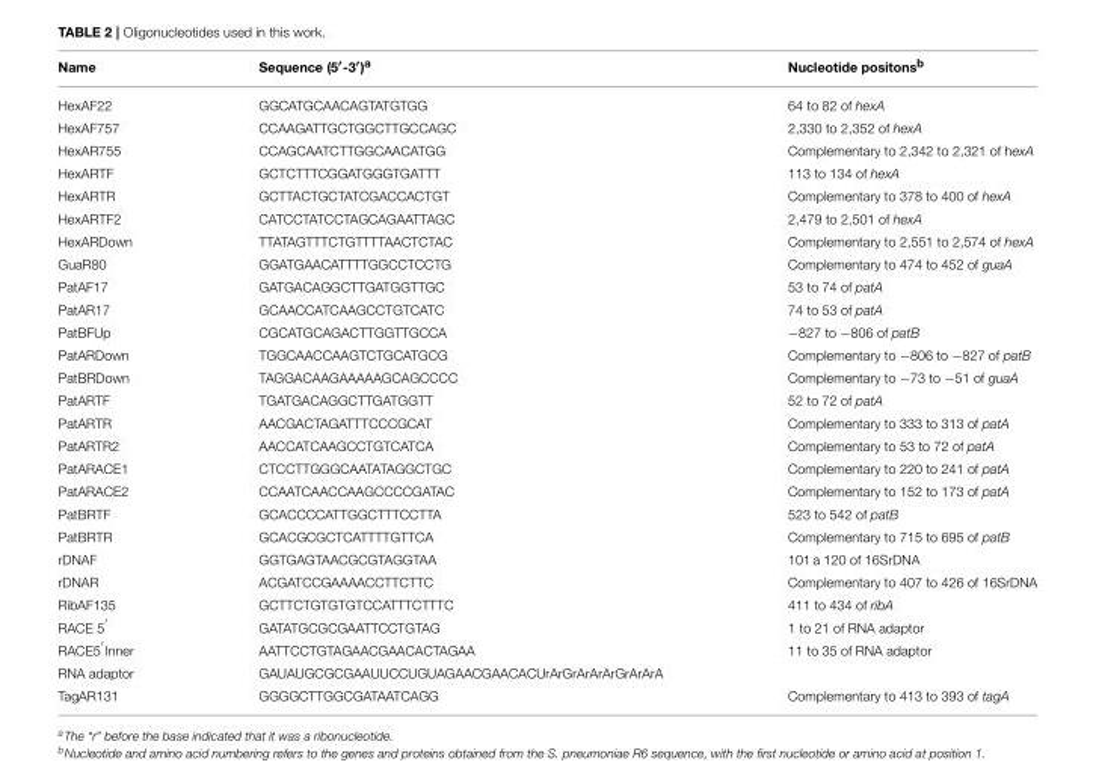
<table><thead><tr><td>Name</td><td>Sequence (5′-3′)<sup>a</sup></td><td>Nucleotide positons<sup>b</sup></td></tr></thead><tbody><tr><td>HexAF22</td><td>GGCATGCAACAGTATGTGG</td><td>64 to 82 of hexA</td></tr><tr><td>HexAF757</td><td>CCAAGATTGCTGGCTTGCCAGC</td><td>2,330 to 2,352 of hexA</td></tr><tr><td>HexAR755</td><td>CCAGCAATCTTGGCAACATGG</td><td>Complementary to 2,342 to 2,321 of hexA</td></tr><tr><td>HexARTF</td><td>GCTCTTTCGGATGGGTGATTT</td><td>113 to 134 of hexA</td></tr><tr><td>HexARTR</td><td>GCTTACTGCTATCGACCACTGT</td><td>Complementary to 378 to 400 of hexA</td></tr><tr><td>HexARTF2</td><td>CATCCTATCCTAGCAGAATTAGC</td><td>2,479 to 2,501 of hexA</td></tr><tr><td>HexARDown</td><td>TTATAGTTTCTGTTTTAACTCTAC</td><td>Complementary to 2,551 to 2,574 of hexA</td></tr><tr><td>GuaR80</td><td>GGATGAACATTTTGGCCTCCTG</td><td>Complementary to 474 to 452 of guaA</td></tr><tr><td>PatAF17</td><td>GATGACAGGCTTGATGGTTGC</td><td>53 to 74 of patA</td></tr><tr><td>PatAR17</td><td>GCAACCATCAAGCCTGTCATC</td><td>74 to 53 of patA</td></tr><tr><td>PatBFUp</td><td>CGCATGCAGACTTGGTTGCCA</td><td>−827 to −806 of patB</td></tr><tr><td>PatARDown</td><td>TGGCAACCAAGTCTGCATGCG</td><td>Complementary to −806 to −827 of patB</td></tr><tr><td>PatBRDown</td><td>TAGGACAAGAAAAAGCAGCCCC</td><td>Complementary to −73 to −51 of guaA</td></tr><tr><td>PatARTF</td><td>TGATGACAGGCTTGATGGTT</td><td>52 to 72 of patA</td></tr><tr><td>PatARTR</td><td>AACGACTAGATTTCCCGCAT</td><td>Complementary to 333 to 313 of patA</td></tr><tr><td>PatARTR2</td><td>AACCATCAAGCCTGTCATCA</td><td>Complementary to 53 to 72 of patA</td></tr><tr><td>PatARACE1</td><td>CTCCTTGGGCAATATAGGCTGC</td><td>Complementary to 220 to 241 of patA</td></tr><tr><td>PatARACE2</td><td>CCAATCAACCAAGCCCCGATAC</td><td>Complementary to 152 to 173 of patA</td></tr><tr><td>PatBRTF</td><td>GCACCCCATTGGCTTTCCTTA</td><td>523 to 542 of patB</td></tr><tr><td>PatBRTR</td><td>GCACGCGCTCATTTTGTTCA</td><td>Complementary to 715 to 695 of patB</td></tr><tr><td>rDNAF</td><td>GGTGAGTAACGCGTAGGTAA</td><td>101 a 120 of 16SrDNA</td></tr><tr><td>rDNAR</td><td>ACGATCCGAAAACCTTCTTC</td><td>Complementary to 407 to 426 of 16SrDNA</td></tr><tr><td>RibAF135</td><td>GCTTCTGTGTGTCCATTTCTTTC</td><td>411 to 434 of ribA</td></tr><tr><td>RACE 5 ′</td><td>GATATGCGCGAATTCCTGTAG</td><td>1 to 21 of RNA adaptor</td></tr><tr><td>RACE5 ′Inner</td><td>AATTCCTGTAGAACGAACACTAGAA</td><td>11 to 35 of RNA adaptor</td></tr><tr><td>RNA adaptor</td><td>GAUAUGCGCGAAUUCCUGUAGAACGAACACUrArGrArArArGrArArA</td><td></td></tr><tr><td>TagAR131</td><td>GGGGCTTGGCGATAATCAGG</td><td>Complementary to 413 to 393 of tagA</td></tr></tbody></table>